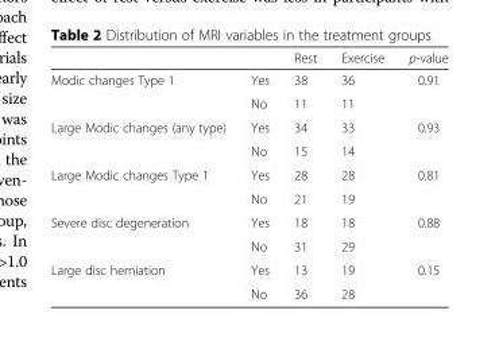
<table><thead><tr><td></td><td></td><td>Rest</td><td>Exercise</td><td>p-value</td></tr></thead><tbody><tr><td rowspan="2">Modic changes Type 1</td><td>Yes</td><td>38</td><td>36</td><td rowspan="2">0.91</td></tr><tr><td>No</td><td>11</td><td>11</td></tr><tr><td rowspan="2">Large Modic changes (any type)</td><td>Yes</td><td>34</td><td>33</td><td rowspan="2">0.93</td></tr><tr><td>No</td><td>15</td><td>14</td></tr><tr><td rowspan="2">Large Modic changes Type 1</td><td>Yes</td><td>28</td><td>28</td><td rowspan="2">0.81</td></tr><tr><td>No</td><td>21</td><td>19</td></tr><tr><td rowspan="2">Severe disc degeneration</td><td>Yes</td><td>18</td><td>18</td><td rowspan="2">0.88</td></tr><tr><td>No</td><td>31</td><td>29</td></tr><tr><td rowspan="2">Large disc herniation</td><td>Yes</td><td>13</td><td>19</td><td rowspan="2">0.15</td></tr><tr><td>No</td><td>36</td><td>28</td></tr></tbody></table>